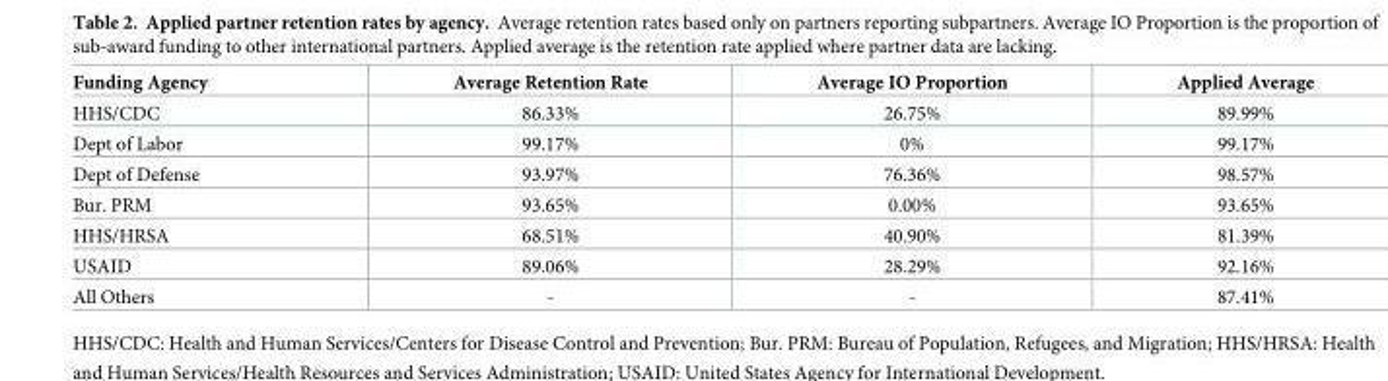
<table><thead><tr><td>Funding Agency</td><td>Average Retention Rate</td><td>Average IO Proportion</td><td>Applied Average</td></tr></thead><tbody><tr><td>HHS/CDC</td><td>86.33%</td><td>26.75%</td><td>89.99%</td></tr><tr><td>Dept of Labor</td><td>99.17%</td><td>0%</td><td>99.17%</td></tr><tr><td>Dept of Defense</td><td>93.97%</td><td>76.36%</td><td>98.57%</td></tr><tr><td>Bur. PRM</td><td>93.65%</td><td>0.00%</td><td>93.65%</td></tr><tr><td>HHS/HRSA</td><td>68.51%</td><td>40.90%</td><td>81.39%</td></tr><tr><td>USAID</td><td>89.06%</td><td>28.29%</td><td>92.16%</td></tr><tr><td>All Others</td><td>-</td><td>-</td><td>87.41%</td></tr></tbody></table>